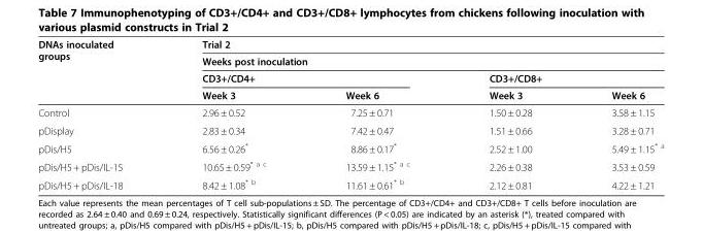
<table><thead><tr><td rowspan="4">DNAs inoculated groups</td><td rowspan="2" colspan="4">Trial 2 Weeks post inoculation</td></tr><tr></tr><tr><td colspan="2">CD3+/CD4+</td><td colspan="2">CD3+/CD8+</td></tr><tr><td>Week 3</td><td>Week 6</td><td>Week 3</td><td>Week 6</td></tr></thead><tbody><tr><td>Control</td><td>2.96 ± 0.52</td><td>7.25 ± 0.71</td><td>1.50 ± 0.28</td><td>3.58 ± 1.15</td></tr><tr><td>pDisplay</td><td>2.83 ± 0.34</td><td>7.42 ± 0.47</td><td>1.51 ± 0.66</td><td>3.28 ± 0.71</td></tr><tr><td>pDis/H5</td><td>6.56 ± 0.26*</td><td>8.86 ± 0.17*</td><td>2.52 ± 1.00</td><td>5.49 ± 1.15<sup>* a</sup></td></tr><tr><td>pDis/H5 + pDis/IL-15</td><td>10.65 ± 0.59<sup>* a c</sup></td><td>13.59 ± 1.15<sup>* a c</sup></td><td>2.26 ± 0.38</td><td>3.53 ± 0.59</td></tr><tr><td>pDis/H5 + pDis/IL-18</td><td>8.42 ± 1.08<sup>* b</sup></td><td>11.61 ± 0.61<sup>* b</sup></td><td>2.12 ± 0.81</td><td>4.22 ± 1.21</td></tr></tbody></table>